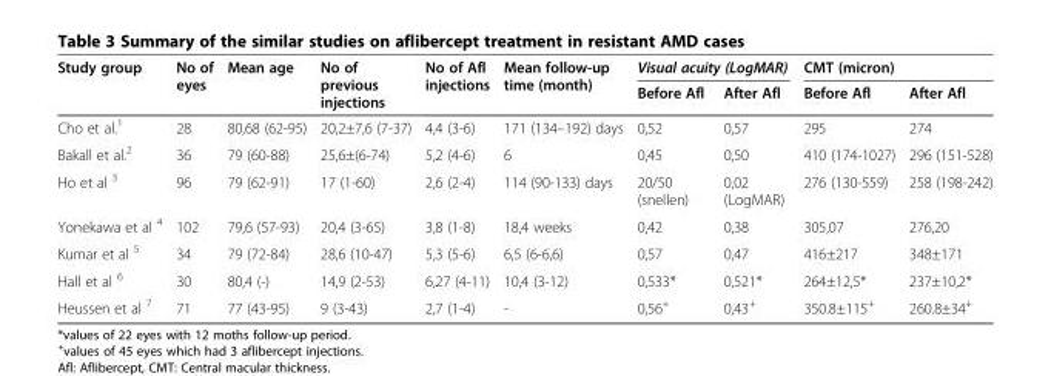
<table><thead><tr><td rowspan="2">Study group</td><td rowspan="2">No of eyes</td><td rowspan="2">Mean age</td><td rowspan="2">No of previous injections</td><td rowspan="2">No of Afl injections</td><td rowspan="2">Mean follow-up time (month)</td><td colspan="2">Visual acuity (LogMAR)</td><td colspan="2">CMT (micron)</td></tr><tr><td>Before Afl</td><td>After Afl</td><td>Before Afl</td><td>After Afl</td></tr></thead><tbody><tr><td>Cho et al.<sup>1</sup></td><td>28</td><td>80,68 (62-95)</td><td>20,2±7,6 (7-37)</td><td>4,4 (3-6)</td><td>171 (134–192) days</td><td>0,52</td><td>0,57</td><td>295</td><td>274</td></tr><tr><td>Bakall et al.<sup>2</sup></td><td>36</td><td>79 (60-88)</td><td>25,6±(6-74)</td><td>5,2 (4-6)</td><td>6</td><td>0,45</td><td>0,50</td><td>410 (174-1027)</td><td>296 (151-528)</td></tr><tr><td>Ho et al <sup>3</sup></td><td>96</td><td>79 (62-91)</td><td>17 (1-60)</td><td>2,6 (2-4)</td><td>114 (90-133) days</td><td>20/50 (snellen)</td><td>0,02 (LogMAR)</td><td>276 (130-559)</td><td>258 (198-242)</td></tr><tr><td>Yonekawa et al <sup>4</sup></td><td>102</td><td>79,6 (57-93)</td><td>20,4 (3-65)</td><td>3,8 (1-8)</td><td>18,4 weeks</td><td>0,42</td><td>0,38</td><td>305,07</td><td>276,20</td></tr><tr><td>Kumar et al <sup>5</sup></td><td>34</td><td>79 (72-84)</td><td>28,6 (10-47)</td><td>5,3 (5-6)</td><td>6,5 (6-6,6)</td><td>0,57</td><td>0,47</td><td>416±217</td><td>348±171</td></tr><tr><td>Hall et al <sup>6</sup></td><td>30</td><td>80,4 (-)</td><td>14,9 (2-53)</td><td>6,27 (4-11)</td><td>10,4 (3-12)</td><td>0,533*</td><td>0,521*</td><td>264±12,5*</td><td>237±10,2*</td></tr><tr><td>Heussen et al <sup>7</sup></td><td>71</td><td>77 (43-95)</td><td>9 (3-43)</td><td>2,7 (1-4)</td><td>-</td><td>0,56<sup>+</sup></td><td>0,43<sup>+</sup></td><td>350.8±115<sup>+</sup></td><td>260.8±34<sup>+</sup></td></tr></tbody></table>